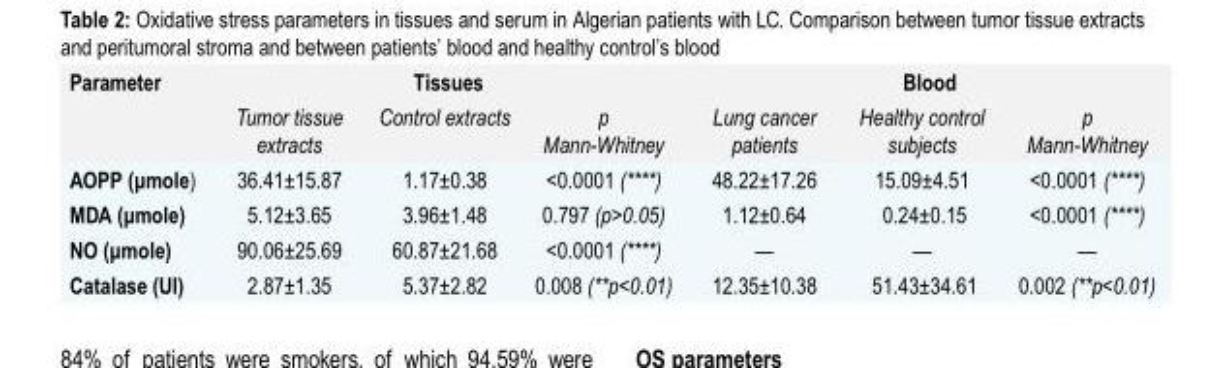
<table><thead><tr><td rowspan="2">Parameter</td><td rowspan="2">Tumor tissue extracts</td><td rowspan="2">Tissues Control extracts</td><td rowspan="2">p Mann-Whitney</td><td rowspan="2">Lung cancer patients</td><td rowspan="2">Blood Healthy control subjects</td><td rowspan="2">p Mann-Whitney</td></tr><tr></tr></thead><tbody><tr><td>AOPP (µmole)</td><td>36.41±15.87</td><td>1.17±0.38</td><td>&lt;0.0001 (****)</td><td>48.22±17.26</td><td>15.09±4.51</td><td>&lt;0.0001 (****)</td></tr><tr><td>MDA (µmole)</td><td>5.12±3.65</td><td>3.96±1.48</td><td>0.797 (p&gt;0.05)</td><td>1.12±0.64</td><td>0.24±0.15</td><td>&lt;0.0001 (****)</td></tr><tr><td>NO (µmole)</td><td>90.06±25.69</td><td>60.87±21.68</td><td>&lt;0.0001 (****)</td><td>—</td><td>—</td><td>—</td></tr><tr><td>Catalase (UI)</td><td>2.87±1.35</td><td>5.37±2.82</td><td>0.008 (**p&lt;0.01)</td><td>12.35±10.38</td><td>51.43±34.61</td><td>0.002 (**p&lt;0.01)</td></tr></tbody></table>